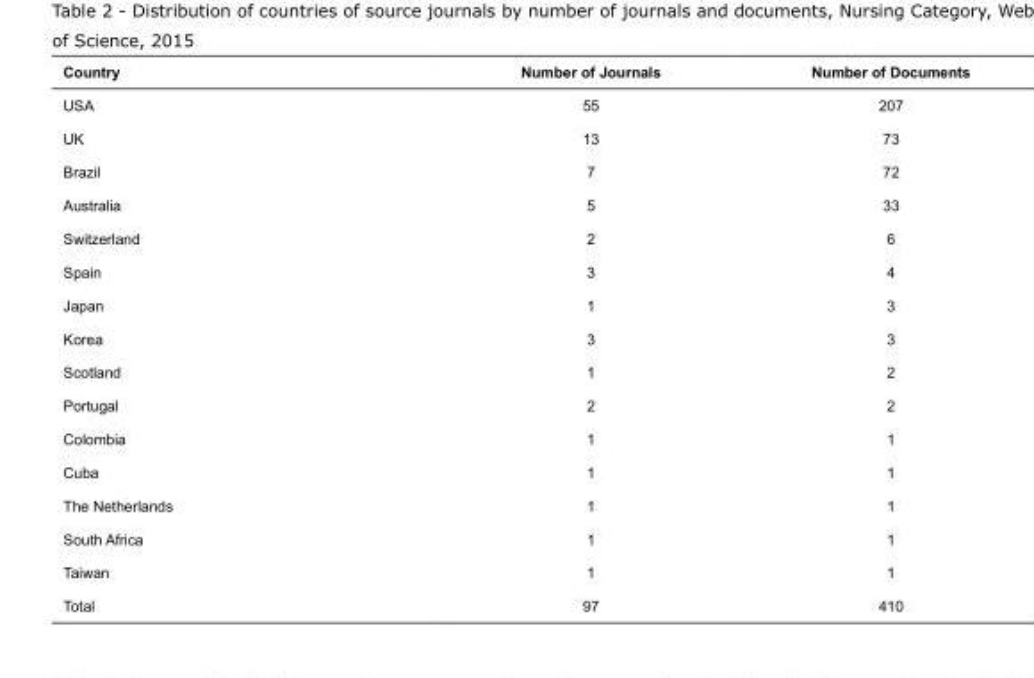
<table><thead><tr><td>Country</td><td>Number of Journals</td><td>Number of Documents</td></tr></thead><tbody><tr><td>USA</td><td>55</td><td>207</td></tr><tr><td>UK</td><td>13</td><td>73</td></tr><tr><td>Brazil</td><td>7</td><td>72</td></tr><tr><td>Australia</td><td>5</td><td>33</td></tr><tr><td>Switzerland</td><td>2</td><td>6</td></tr><tr><td>Spain</td><td>3</td><td>4</td></tr><tr><td>Japan</td><td>1</td><td>3</td></tr><tr><td>Korea</td><td>3</td><td>3</td></tr><tr><td>Scotland</td><td>1</td><td>2</td></tr><tr><td>Portugal</td><td>2</td><td>2</td></tr><tr><td>Colombia</td><td>1</td><td>1</td></tr><tr><td>Cuba</td><td>1</td><td>1</td></tr><tr><td>The Netherlands</td><td>1</td><td>1</td></tr><tr><td>South Africa</td><td>1</td><td>1</td></tr><tr><td>Taiwan</td><td>1</td><td>1</td></tr><tr><td>Total</td><td>97</td><td>410</td></tr></tbody></table>